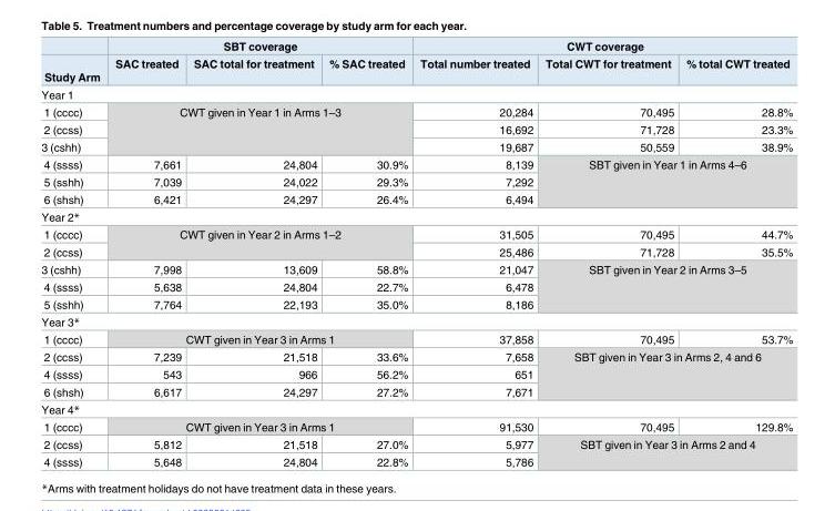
<table><thead><tr><td rowspan="2">Study Arm</td><td colspan="3">SBT coverage</td><td colspan="3">CWT coverage</td></tr><tr><td>SAC treated</td><td>SAC total for treatment</td><td>% SAC treated</td><td>Total number treated</td><td>Total CWT for treatment</td><td>% total CWT treated</td></tr></thead><tbody><tr><td colspan="7">Year 1</td></tr><tr><td>1 (cccc)</td><td rowspan="3" colspan="3">CWT given in Year 1 in Arms 1–3</td><td>20,284</td><td>70,495</td><td>28.8%</td></tr><tr><td>2 (ccss)</td><td>16,692</td><td>71,728</td><td>23.3%</td></tr><tr><td>3 (cshh)</td><td>19,687</td><td>50,559</td><td>38.9%</td></tr><tr><td>4 (ssss)</td><td>7,661</td><td>24,804</td><td>30.9%</td><td>8,139</td><td rowspan="3" colspan="2">SBT given in Year 1 in Arms 4–6</td></tr><tr><td>5 (sshh)</td><td>7,039</td><td>24,022</td><td>29.3%</td><td>7,292</td></tr><tr><td>6 (shsh)</td><td>6,421</td><td>24,297</td><td>26.4%</td><td>6,494</td></tr><tr><td colspan="7">Year 2*</td></tr><tr><td>1 (cccc)</td><td rowspan="2" colspan="3">CWT given in Year 2 in Arms 1–2</td><td>31,505</td><td>70,495</td><td>44.7%</td></tr><tr><td>2 (ccss)</td><td>25,486</td><td>71,728</td><td>35.5%</td></tr><tr><td>3 (cshh)</td><td>7,998</td><td>13,609</td><td>58.8%</td><td>21,047</td><td rowspan="3" colspan="2">SBT given in Year 2 in Arms 3–5</td></tr><tr><td>4 (ssss)</td><td>5,638</td><td>24,804</td><td>22.7%</td><td>6,478</td></tr><tr><td>5 (sshh)</td><td>7,764</td><td>22,193</td><td>35.0%</td><td>8,186</td></tr><tr><td colspan="7">Year 3*</td></tr><tr><td>1 (cccc)</td><td colspan="3">CWT given in Year 3 in Arms 1</td><td>37,858</td><td>70,495</td><td>53.7%</td></tr><tr><td>2 (ccss)</td><td>7,239</td><td>21,518</td><td>33.6%</td><td>7,658</td><td rowspan="3" colspan="2">SBT given in Year 3 in Arms 2, 4 and 6</td></tr><tr><td>4 (ssss)</td><td>543</td><td>966</td><td>56.2%</td><td>651</td></tr><tr><td>6 (shsh)</td><td>6,617</td><td>24,297</td><td>27.2%</td><td>7,671</td></tr><tr><td colspan="7">Year 4*</td></tr><tr><td>1 (cccc)</td><td colspan="3">CWT given in Year 3 in Arms 1</td><td>91,530</td><td>70,495</td><td>129.8%</td></tr><tr><td>2 (ccss)</td><td>5,812</td><td>21,518</td><td>27.0%</td><td>5,977</td><td rowspan="2" colspan="2">SBT given in Year 3 in Arms 2 and 4</td></tr><tr><td>4 (ssss)</td><td>5,648</td><td>24,804</td><td>22.8%</td><td>5,786</td></tr></tbody></table>